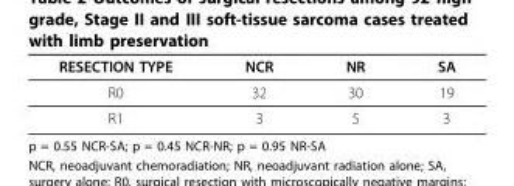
<table><thead><tr><td>RESECTION TYPE</td><td>NCR</td><td>NR</td><td>SA</td></tr></thead><tbody><tr><td>R0</td><td>32</td><td>30</td><td>19</td></tr><tr><td>R1</td><td>3</td><td>5</td><td>3</td></tr></tbody></table>